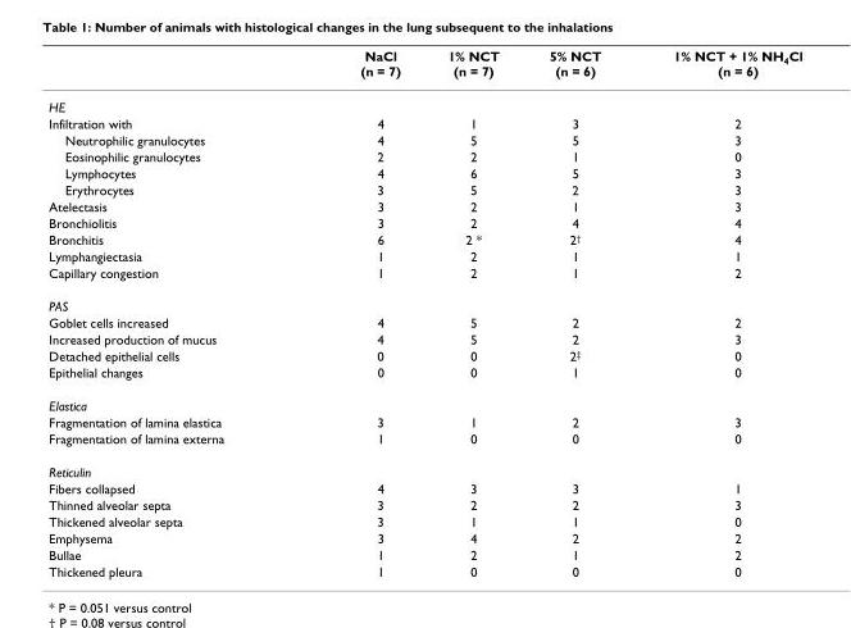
<table><thead><tr><td></td><td>NaCl (n = 7)</td><td>1% NCT (n = 7)</td><td>5% NCT (n = 6)</td><td>1% NCT + 1% NH<sub>4</sub>Cl (n = 6)</td></tr></thead><tbody><tr><td colspan="5">HE</td></tr><tr><td>Infiltration with</td><td>4</td><td>1</td><td>3</td><td>2</td></tr><tr><td>Neutrophilic granulocytes</td><td>4</td><td>5</td><td>5</td><td>3</td></tr><tr><td>Eosinophilic granulocytes</td><td>2</td><td>2</td><td>1</td><td>0</td></tr><tr><td>Lymphocytes</td><td>4</td><td>6</td><td>5</td><td>3</td></tr><tr><td>Erythrocytes</td><td>3</td><td>5</td><td>2</td><td>3</td></tr><tr><td>Atelectasis</td><td>3</td><td>2</td><td>1</td><td>3</td></tr><tr><td>Bronchiolitis</td><td>3</td><td>2</td><td>4</td><td>4</td></tr><tr><td>Bronchitis</td><td>6</td><td>2 *</td><td>2<sup>†</sup></td><td>4</td></tr><tr><td>Lymphangiectasia</td><td>1</td><td>2</td><td>1</td><td>1</td></tr><tr><td>Capillary congestion</td><td>1</td><td>2</td><td>1</td><td>2</td></tr><tr><td colspan="5">PAS</td></tr><tr><td>Goblet cells increased</td><td>4</td><td>5</td><td>2</td><td>2</td></tr><tr><td>Increased production of mucus</td><td>4</td><td>5</td><td>2</td><td>3</td></tr><tr><td>Detached epithelial cells</td><td>0</td><td>0</td><td>2<sup>‡</sup></td><td>0</td></tr><tr><td>Epithelial changes</td><td>0</td><td>0</td><td>1</td><td>0</td></tr><tr><td colspan="5">Elastica</td></tr><tr><td>Fragmentation of lamina elastica</td><td>3</td><td>1</td><td>2</td><td>3</td></tr><tr><td>Fragmentation of lamina externa</td><td>1</td><td>0</td><td>0</td><td>0</td></tr><tr><td colspan="5">Reticulin</td></tr><tr><td>Fibers collapsed</td><td>4</td><td>3</td><td>3</td><td>1</td></tr><tr><td>Thinned alveolar septa</td><td>3</td><td>2</td><td>2</td><td>3</td></tr><tr><td>Thickened alveolar septa</td><td>3</td><td>1</td><td>1</td><td>0</td></tr><tr><td>Emphysema</td><td>3</td><td>4</td><td>2</td><td>2</td></tr><tr><td>Bullae</td><td>1</td><td>2</td><td>1</td><td>2</td></tr><tr><td>Thickened pleura</td><td>1</td><td>0</td><td>0</td><td>0</td></tr></tbody></table>